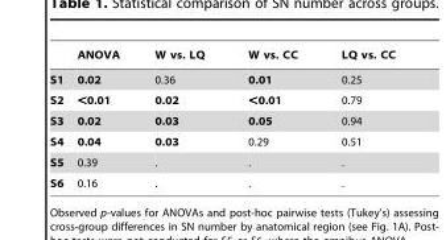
<table><thead><tr><td></td><td>ANOVA</td><td>W vs. LQ</td><td>W vs. CC</td><td>LQ vs. CC</td></tr></thead><tbody><tr><td>S1</td><td>0.02</td><td>0.36</td><td>0.01</td><td>0.25</td></tr><tr><td>S2</td><td>&lt;0.01</td><td>0.02</td><td>&lt;0.01</td><td>0.79</td></tr><tr><td>S3</td><td>0.02</td><td>0.03</td><td>0.05</td><td>0.94</td></tr><tr><td>S4</td><td>0.04</td><td>0.03</td><td>0.29</td><td>0.51</td></tr><tr><td>S5</td><td>0.39</td><td>.</td><td>.</td><td>.</td></tr><tr><td>S6</td><td>0.16</td><td>.</td><td>.</td><td>.</td></tr></tbody></table>